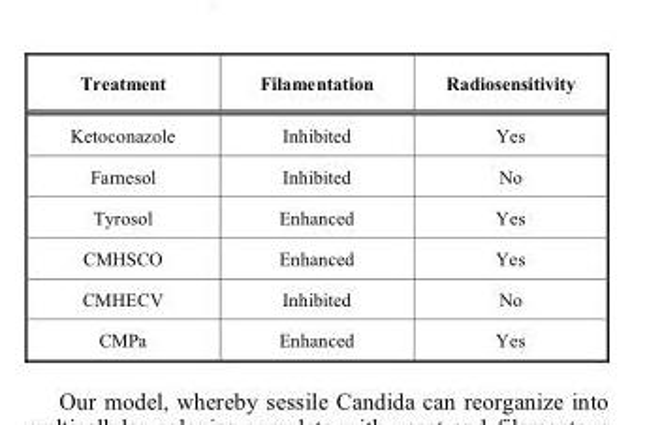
<table><thead><tr><td>Treatment</td><td>Filamentation</td><td>Radiosensitivity</td></tr></thead><tbody><tr><td>Ketoconazole</td><td>Inhibited</td><td>Yes</td></tr><tr><td>Farnesol</td><td>Inhibited</td><td>No</td></tr><tr><td>Tyrosol</td><td>Enhanced</td><td>Yes</td></tr><tr><td>CMHSCO</td><td>Enhanced</td><td>Yes</td></tr><tr><td>CMHECV</td><td>Inhibited</td><td>No</td></tr><tr><td>CMPa</td><td>Enhanced</td><td>Yes</td></tr></tbody></table>